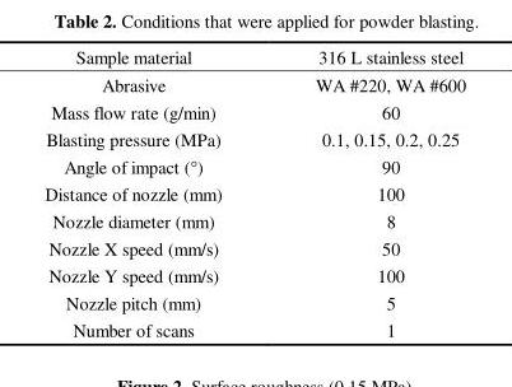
<table><thead><tr><td>Sample material</td><td>316 L stainless steel</td></tr></thead><tbody><tr><td>Abrasive</td><td>WA #220, WA #600</td></tr><tr><td>Mass flow rate (g/min)</td><td>60</td></tr><tr><td>Blasting pressure (MPa)</td><td>0.1, 0.15, 0.2, 0.25</td></tr><tr><td>Angle of impact (°)</td><td>90</td></tr><tr><td>Distance of nozzle (mm)</td><td>100</td></tr><tr><td>Nozzle diameter (mm)</td><td>8</td></tr><tr><td>Nozzle X speed (mm/s)</td><td>50</td></tr><tr><td>Nozzle Y speed (mm/s)</td><td>100</td></tr><tr><td>Nozzle pitch (mm)</td><td>5</td></tr><tr><td>Number of scans</td><td>1</td></tr></tbody></table>